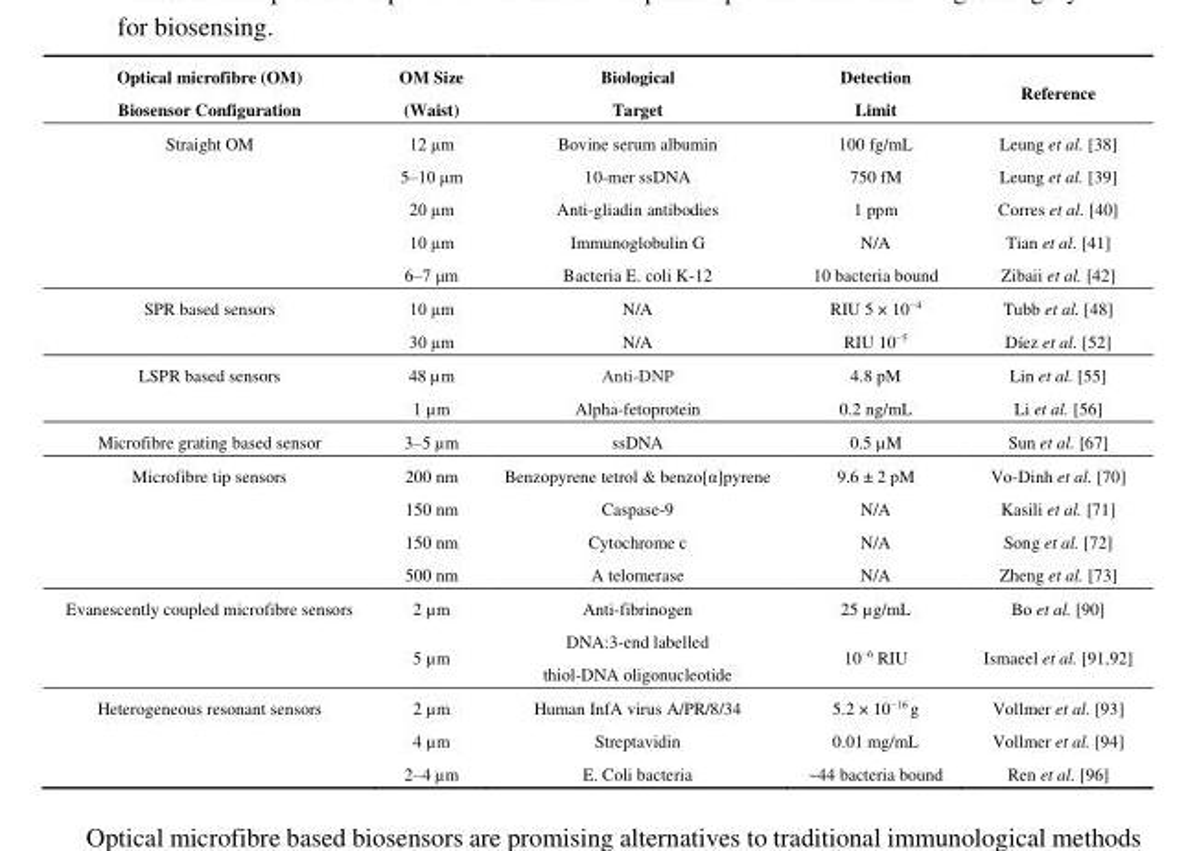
<table><thead><tr><td>Optical microfibre (OM) Biosensor Configuration</td><td>OM Size (Waist)</td><td>Biological Target</td><td>Detection Limit</td><td>Reference</td></tr></thead><tbody><tr><td rowspan="5">Straight OM</td><td>12 μm</td><td>Bovine serum albumin</td><td>100 fg/mL</td><td>Leung et al. [38]</td></tr><tr><td>5–10 μm</td><td>10-mer ssDNA</td><td>750 fM</td><td>Leung et al. [39]</td></tr><tr><td>20 μm</td><td>Anti-gliadin antibodies</td><td>1 ppm</td><td>Corres et al. [40]</td></tr><tr><td>10 μm</td><td>Immunoglobulin G</td><td>N/A</td><td>Tian et al. [41]</td></tr><tr><td>6–7 μm</td><td>Bacteria E. coli K-12</td><td>10 bacteria bound</td><td>Zibaii et al. [42]</td></tr><tr><td rowspan="2">SPR based sensors</td><td>10 μm</td><td>N/A</td><td>RIU 5 × 10<sup>−4</sup></td><td>Tubb et al. [48]</td></tr><tr><td>30 μm</td><td>N/A</td><td>RIU 10<sup>−5</sup></td><td>Díez et al. [52]</td></tr><tr><td rowspan="2">LSPR based sensors</td><td>48 µm</td><td>Anti-DNP</td><td>4.8 pM</td><td>Lin et al. [55]</td></tr><tr><td>1 µm</td><td>Alpha-fetoprotein</td><td>0.2 ng/mL</td><td>Li et al. [56]</td></tr><tr><td>Microfibre grating based sensor</td><td>3–5 µm</td><td>ssDNA</td><td>0.5 µM</td><td>Sun et al. [67]</td></tr><tr><td rowspan="4">Microfibre tip sensors</td><td>200 nm</td><td>Benzopyrene tetrol &amp; benzo[α]pyrene</td><td>9.6 ± 2 pM</td><td>Vo-Dinh et al. [70]</td></tr><tr><td>150 nm</td><td>Caspase-9</td><td>N/A</td><td>Kasili et al. [71]</td></tr><tr><td>150 nm</td><td>Cytochrome c</td><td>N/A</td><td>Song et al. [72]</td></tr><tr><td>500 nm</td><td>A telomerase</td><td>N/A</td><td>Zheng et al. [73]</td></tr><tr><td rowspan="2">Evanescently coupled microfibre sensors</td><td>2 µm</td><td>Anti-fibrinogen</td><td>25 µg/mL</td><td>Bo et al. [90]</td></tr><tr><td>5 µm</td><td>DNA:3-end labelled thiol-DNA oligonucleotide</td><td>10<sup>−6</sup> RIU</td><td>Ismaeel et al. [91,92]</td></tr><tr><td rowspan="3">Heterogeneous resonant sensors</td><td>2 µm</td><td>Human InfA virus A/PR/8/34</td><td>5.2 × 10<sup>−16</sup> g</td><td>Vollmer et al. [93]</td></tr><tr><td>4 µm</td><td>Streptavidin</td><td>0.01 mg/mL</td><td>Vollmer et al. [94]</td></tr><tr><td>2–4 µm</td><td>E. Coli bacteria</td><td>~44 bacteria bound</td><td>Ren et al. [96]</td></tr></tbody></table>